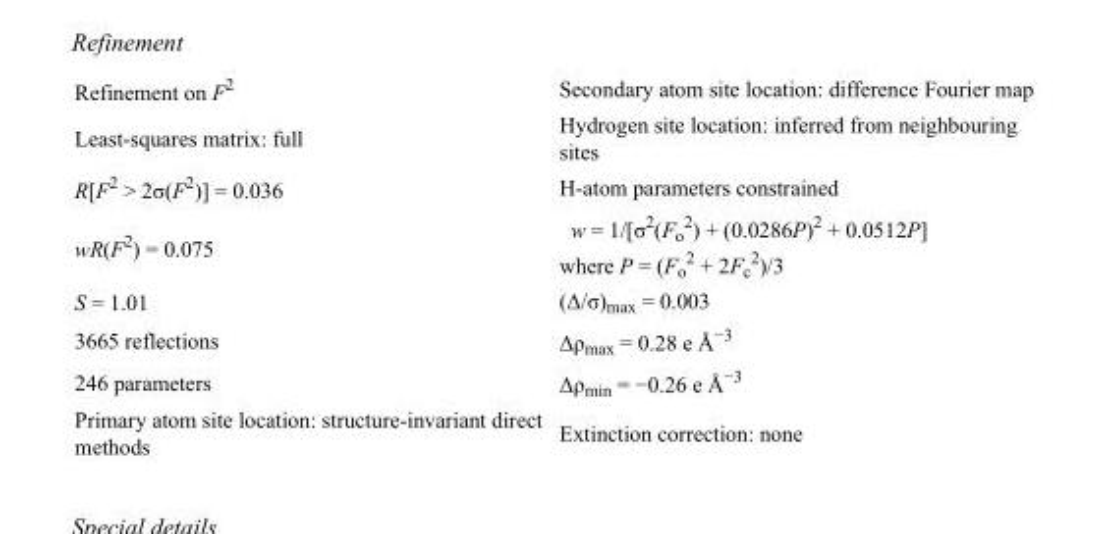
<table><tbody><tr><td>Refinement on F<sup>2</sup></td><td>Secondary atom site location: difference Fourier map</td></tr><tr><td>Least-squares matrix: full</td><td>Hydrogen site location: inferred from neighbouring sites</td></tr><tr><td>R[F<sup>2</sup> &gt; 2σ(F<sup>2</sup>)] = 0.036</td><td>H-atom parameters constrained</td></tr><tr><td>wR(F<sup>2</sup>) = 0.075</td><td>w = 1/[σ<sup>2</sup>(F<sub>o</sub> <sup>2</sup>) + (0.0286P)<sup>2</sup> + 0.0512P] where P = (F<sub>o</sub> <sup>2</sup> + 2F<sub>c</sub> <sup>2</sup>)/3</td></tr><tr><td>S = 1.01</td><td>(Δ/σ)<sub>max</sub> = 0.003</td></tr><tr><td>3665 reflections</td><td>Δρ<sub>max</sub> = 0.28 e Å<sup>−3</sup></td></tr><tr><td>246 parameters</td><td>Δρ<sub>min</sub> = −0.26 e Å<sup>−3</sup></td></tr><tr><td>Primary atom site location: structure-invariant direct methods</td><td>Extinction correction: none</td></tr></tbody></table>